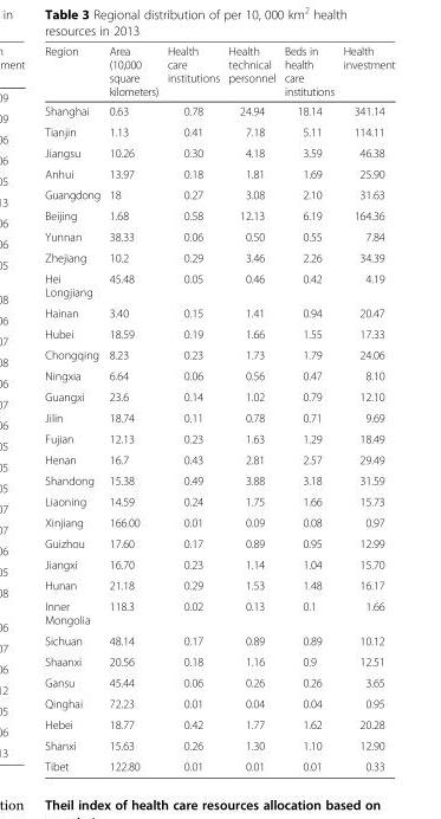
<table><thead><tr><td>Region</td><td>Area (10,000 square kilometers)</td><td>Health care institutions</td><td>Health technical personnel</td><td>Beds in health care institutions</td><td>Health investment</td></tr></thead><tbody><tr><td>Shanghai</td><td>0.63</td><td>0.78</td><td>24.94</td><td>18.14</td><td>341.14</td></tr><tr><td>Tianjin</td><td>1.13</td><td>0.41</td><td>7.18</td><td>5.11</td><td>114.11</td></tr><tr><td>Jiangsu</td><td>10.26</td><td>0.30</td><td>4.18</td><td>3.59</td><td>46.38</td></tr><tr><td>Anhui</td><td>13.97</td><td>0.18</td><td>1.81</td><td>1.69</td><td>25.90</td></tr><tr><td>Guangdong</td><td>18</td><td>0.27</td><td>3.08</td><td>2.10</td><td>31.63</td></tr><tr><td>Beijing</td><td>1.68</td><td>0.58</td><td>12.13</td><td>6.19</td><td>164.36</td></tr><tr><td>Yunnan</td><td>38.33</td><td>0.06</td><td>0.50</td><td>0.55</td><td>7.84</td></tr><tr><td>Zhejiang</td><td>10.2</td><td>0.29</td><td>3.46</td><td>2.26</td><td>34.39</td></tr><tr><td>Hei Longjiang</td><td>45.48</td><td>0.05</td><td>0.46</td><td>0.42</td><td>4.19</td></tr><tr><td>Hainan</td><td>3.40</td><td>0.15</td><td>1.41</td><td>0.94</td><td>20.47</td></tr><tr><td>Hubei</td><td>18.59</td><td>0.19</td><td>1.66</td><td>1.55</td><td>17.33</td></tr><tr><td>Chongqing</td><td>8.23</td><td>0.23</td><td>1.73</td><td>1.79</td><td>24.06</td></tr><tr><td>Ningxia</td><td>6.64</td><td>0.06</td><td>0.56</td><td>0.47</td><td>8.10</td></tr><tr><td>Guangxi</td><td>23.6</td><td>0.14</td><td>1.02</td><td>0.79</td><td>12.10</td></tr><tr><td>Jilin</td><td>18.74</td><td>0.11</td><td>0.78</td><td>0.71</td><td>9.69</td></tr><tr><td>Fujian</td><td>12.13</td><td>0.23</td><td>1.63</td><td>1.29</td><td>18.49</td></tr><tr><td>Henan</td><td>16.7</td><td>0.43</td><td>2.81</td><td>2.57</td><td>29.49</td></tr><tr><td>Shandong</td><td>15.38</td><td>0.49</td><td>3.88</td><td>3.18</td><td>31.59</td></tr><tr><td>Liaoning</td><td>14.59</td><td>0.24</td><td>1.75</td><td>1.66</td><td>15.73</td></tr><tr><td>Xinjiang</td><td>166.00</td><td>0.01</td><td>0.09</td><td>0.08</td><td>0.97</td></tr><tr><td>Guizhou</td><td>17.60</td><td>0.17</td><td>0.89</td><td>0.95</td><td>12.99</td></tr><tr><td>Jiangxi</td><td>16.70</td><td>0.23</td><td>1.14</td><td>1.04</td><td>15.70</td></tr><tr><td>Hunan</td><td>21.18</td><td>0.29</td><td>1.53</td><td>1.48</td><td>16.17</td></tr><tr><td>Inner Mongolia</td><td>118.3</td><td>0.02</td><td>0.13</td><td>0.1</td><td>1.66</td></tr><tr><td>Sichuan</td><td>48.14</td><td>0.17</td><td>0.89</td><td>0.89</td><td>10.12</td></tr><tr><td>Shaanxi</td><td>20.56</td><td>0.18</td><td>1.16</td><td>0.9</td><td>12.51</td></tr><tr><td>Gansu</td><td>45.44</td><td>0.06</td><td>0.26</td><td>0.26</td><td>3.65</td></tr><tr><td>Qinghai</td><td>72.23</td><td>0.01</td><td>0.04</td><td>0.04</td><td>0.95</td></tr><tr><td>Hebei</td><td>18.77</td><td>0.42</td><td>1.77</td><td>1.62</td><td>20.28</td></tr><tr><td>Shanxi</td><td>15.63</td><td>0.26</td><td>1.30</td><td>1.10</td><td>12.90</td></tr><tr><td>Tibet</td><td>122.80</td><td>0.01</td><td>0.01</td><td>0.01</td><td>0.33</td></tr></tbody></table>